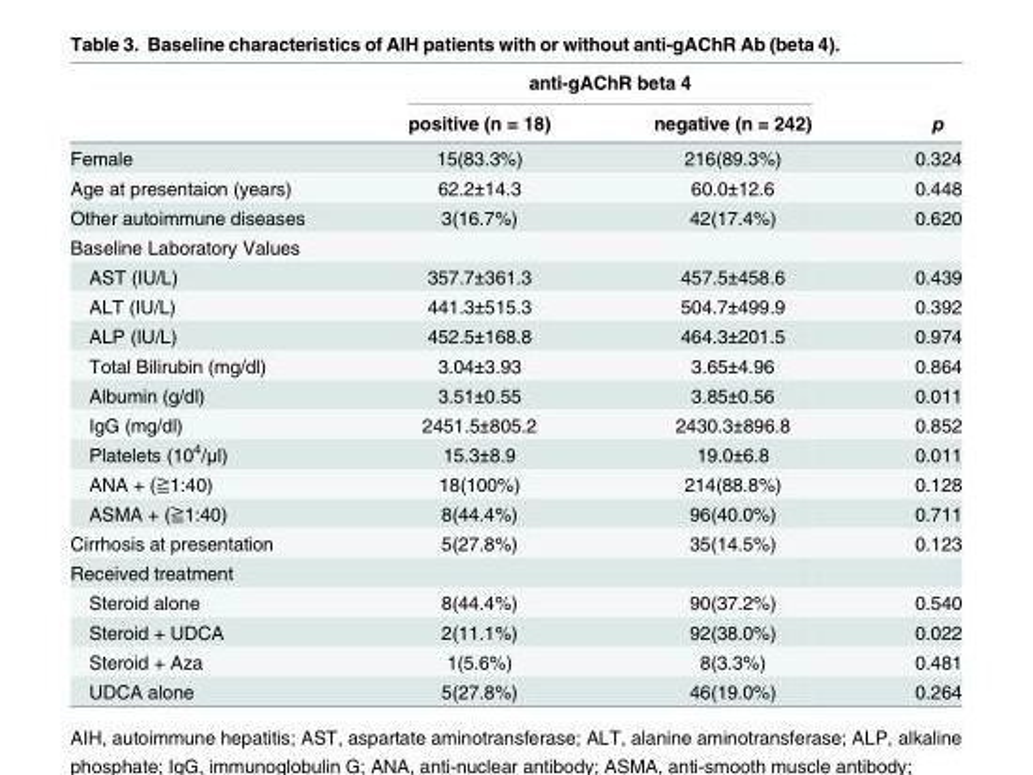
<table><thead><tr><td rowspan="2"></td><td colspan="2">anti-gAChR beta 4</td><td rowspan="2">p</td></tr><tr><td>positive (n = 18)</td><td>negative (n = 242)</td></tr></thead><tbody><tr><td>Female</td><td>15(83.3%)</td><td>216(89.3%)</td><td>0.324</td></tr><tr><td>Age at presentaion (years)</td><td>62.2±14.3</td><td>60.0±12.6</td><td>0.448</td></tr><tr><td>Other autoimmune diseases</td><td>3(16.7%)</td><td>42(17.4%)</td><td>0.620</td></tr><tr><td colspan="4">Baseline Laboratory Values</td></tr><tr><td>AST (IU/L)</td><td>357.7±361.3</td><td>457.5±458.6</td><td>0.439</td></tr><tr><td>ALT (IU/L)</td><td>441.3±515.3</td><td>504.7±499.9</td><td>0.392</td></tr><tr><td>ALP (IU/L)</td><td>452.5±168.8</td><td>464.3±201.5</td><td>0.974</td></tr><tr><td>Total Bilirubin (mg/dl)</td><td>3.04±3.93</td><td>3.65±4.96</td><td>0.864</td></tr><tr><td>Albumin (g/dl)</td><td>3.51±0.55</td><td>3.85±0.56</td><td>0.011</td></tr><tr><td>IgG (mg/dl)</td><td>2451.5±805.2</td><td>2430.3±896.8</td><td>0.852</td></tr><tr><td>Platelets (10<sup>4</sup>/μl)</td><td>15.3±8.9</td><td>19.0±6.8</td><td>0.011</td></tr><tr><td>ANA + (≧1:40)</td><td>18(100%)</td><td>214(88.8%)</td><td>0.128</td></tr><tr><td>ASMA + (≧1:40)</td><td>8(44.4%)</td><td>96(40.0%)</td><td>0.711</td></tr><tr><td>Cirrhosis at presentation</td><td>5(27.8%)</td><td>35(14.5%)</td><td>0.123</td></tr><tr><td colspan="4">Received treatment</td></tr><tr><td>Steroid alone</td><td>8(44.4%)</td><td>90(37.2%)</td><td>0.540</td></tr><tr><td>Steroid + UDCA</td><td>2(11.1%)</td><td>92(38.0%)</td><td>0.022</td></tr><tr><td>Steroid + Aza</td><td>1(5.6%)</td><td>8(3.3%)</td><td>0.481</td></tr><tr><td>UDCA alone</td><td>5(27.8%)</td><td>46(19.0%)</td><td>0.264</td></tr></tbody></table>